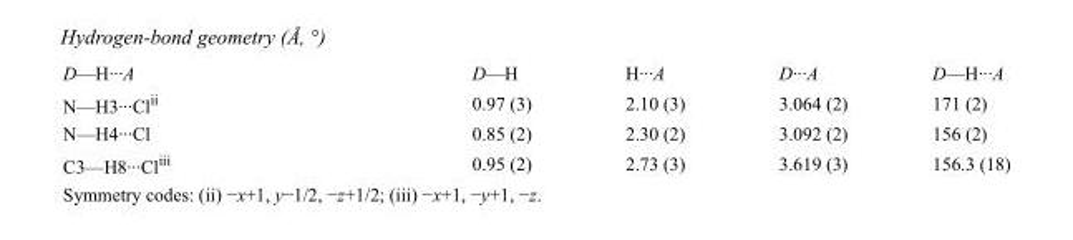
<table><tbody><tr><td>D—H···A</td><td>D—H</td><td>H···A</td><td>D···A</td><td>D—H···A</td></tr><tr><td>N—H3···Cl<sup>ii</sup></td><td>0.97 (3)</td><td>2.10 (3)</td><td>3.064 (2)</td><td>171 (2)</td></tr><tr><td>N—H4···Cl</td><td>0.85 (2)</td><td>2.30 (2)</td><td>3.092 (2)</td><td>156 (2)</td></tr><tr><td>C3—H8···Cl<sup>iii</sup></td><td>0.95 (2)</td><td>2.73 (3)</td><td>3.619 (3)</td><td>156.3 (18)</td></tr></tbody></table>